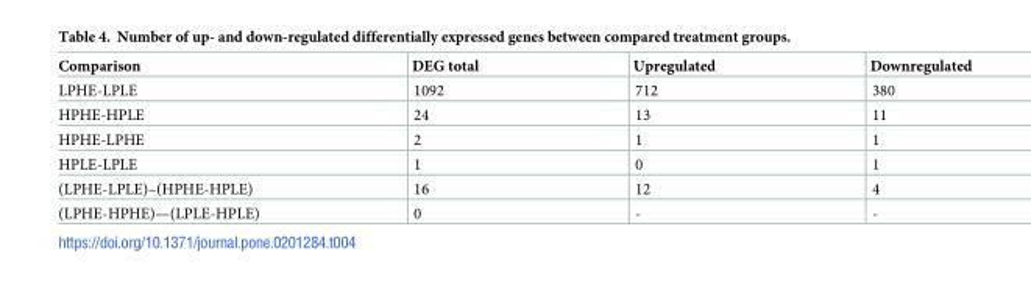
<table><thead><tr><td>Comparison</td><td>DEG total</td><td>Upregulated</td><td>Downregulated</td></tr></thead><tbody><tr><td>LPHE-LPLE</td><td>1092</td><td>712</td><td>380</td></tr><tr><td>HPHE-HPLE</td><td>24</td><td>13</td><td>11</td></tr><tr><td>HPHE-LPHE</td><td>2</td><td>1</td><td>1</td></tr><tr><td>HPLE-LPLE</td><td>1</td><td>0</td><td>1</td></tr><tr><td>(LPHE-LPLE)–(HPHE-HPLE)</td><td>16</td><td>12</td><td>4</td></tr><tr><td>(LPHE-HPHE)—(LPLE-HPLE)</td><td>0</td><td>-</td><td>-</td></tr></tbody></table>